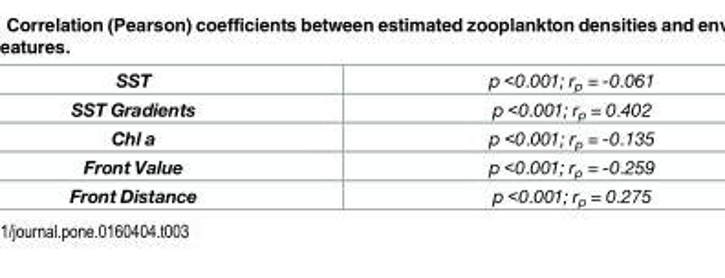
<table><tbody><tr><td>SST</td><td>p &lt;0.001; r<sub>p</sub> = -0.061</td></tr><tr><td>SST Gradients</td><td>p &lt;0.001; r<sub>p</sub> = 0.402</td></tr><tr><td>Chl a</td><td>p &lt;0.001; r<sub>p</sub> = -0.135</td></tr><tr><td>Front Value</td><td>p &lt;0.001; r<sub>p</sub> = -0.259</td></tr><tr><td>Front Distance</td><td>p &lt;0.001; r<sub>p</sub> = 0.275</td></tr></tbody></table>